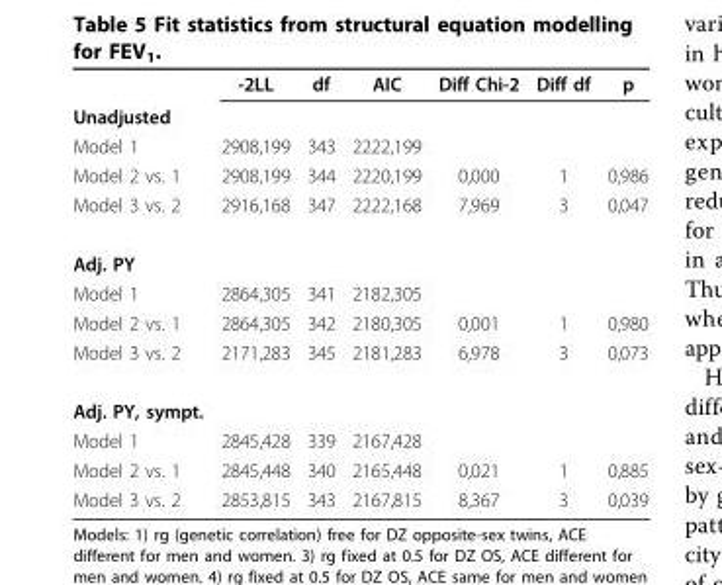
<table><thead><tr><td></td><td>-2LL</td><td>df</td><td>AIC</td><td>Diff Chi-2</td><td>Diff df</td><td>p</td></tr></thead><tbody><tr><td colspan="7">Unadjusted</td></tr><tr><td>Model 1</td><td>2908,199</td><td>343</td><td>2222,199</td><td></td><td></td><td></td></tr><tr><td>Model 2 vs. 1</td><td>2908,199</td><td>344</td><td>2220,199</td><td>0,000</td><td>1</td><td>0,986</td></tr><tr><td>Model 3 vs. 2</td><td>2916,168</td><td>347</td><td>2222,168</td><td>7,969</td><td>3</td><td>0,047</td></tr><tr><td colspan="7">Adj. PY</td></tr><tr><td>Model 1</td><td>2864,305</td><td>341</td><td>2182,305</td><td></td><td></td><td></td></tr><tr><td>Model 2 vs. 1</td><td>2864,305</td><td>342</td><td>2180,305</td><td>0,001</td><td>1</td><td>0,980</td></tr><tr><td>Model 3 vs. 2</td><td>2171,283</td><td>345</td><td>2181,283</td><td>6,978</td><td>3</td><td>0,073</td></tr><tr><td colspan="7">Adj. PY, sympt.</td></tr><tr><td>Model 1</td><td>2845,428</td><td>339</td><td>2167,428</td><td></td><td></td><td></td></tr><tr><td>Model 2 vs. 1</td><td>2845,448</td><td>340</td><td>2165,448</td><td>0,021</td><td>1</td><td>0,885</td></tr><tr><td>Model 3 vs. 2</td><td>2853,815</td><td>343</td><td>2167,815</td><td>8,367</td><td>3</td><td>0,039</td></tr></tbody></table>